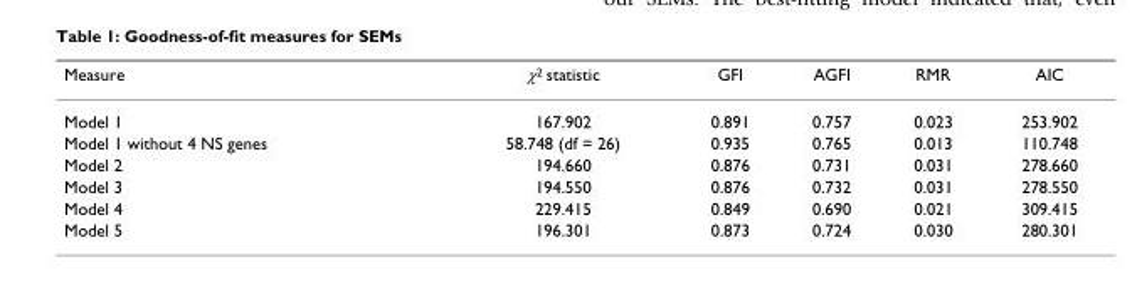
<table><thead><tr><td>Measure</td><td>χ<sup>2</sup> statistic</td><td>GFI</td><td>AGFI</td><td>RMR</td><td>AIC</td></tr></thead><tbody><tr><td>Model 1</td><td>167.902</td><td>0.891</td><td>0.757</td><td>0.023</td><td>253.902</td></tr><tr><td>Model 1 without 4 NS genes</td><td>58.748 (df = 26)</td><td>0.935</td><td>0.765</td><td>0.013</td><td>110.748</td></tr><tr><td>Model 2</td><td>194.660</td><td>0.876</td><td>0.731</td><td>0.031</td><td>278.660</td></tr><tr><td>Model 3</td><td>194.550</td><td>0.876</td><td>0.732</td><td>0.031</td><td>278.550</td></tr><tr><td>Model 4</td><td>229.415</td><td>0.849</td><td>0.690</td><td>0.021</td><td>309.415</td></tr><tr><td>Model 5</td><td>196.301</td><td>0.873</td><td>0.724</td><td>0.030</td><td>280.301</td></tr></tbody></table>